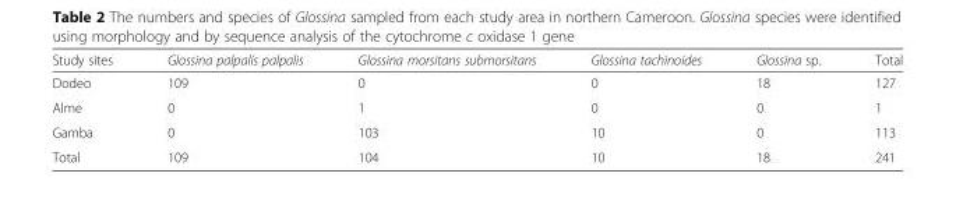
<table><thead><tr><td>Study sites</td><td>Glossina palpalis palpalis</td><td>Glossina morsitans submorsitans</td><td>Glossina tachinoides</td><td>Glossina sp.</td><td>Total</td></tr></thead><tbody><tr><td>Dodeo</td><td>109</td><td>0</td><td>0</td><td>18</td><td>127</td></tr><tr><td>Alme</td><td>0</td><td>1</td><td>0</td><td>0</td><td>1</td></tr><tr><td>Gamba</td><td>0</td><td>103</td><td>10</td><td>0</td><td>113</td></tr><tr><td>Total</td><td>109</td><td>104</td><td>10</td><td>18</td><td>241</td></tr></tbody></table>